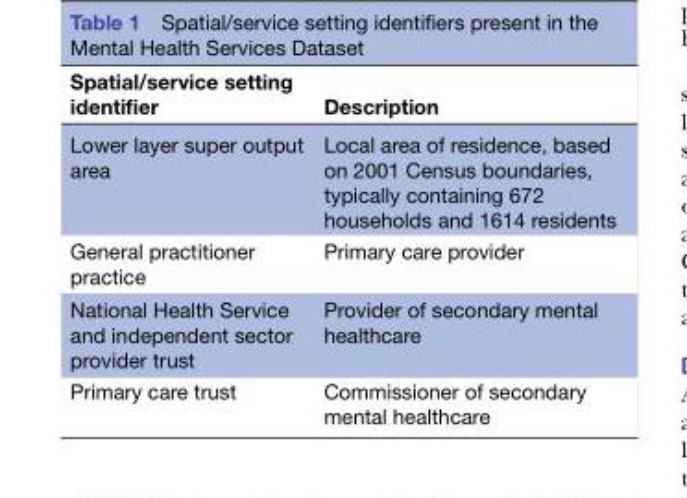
<table><thead><tr><td>Spatial/service setting identifier</td><td>Description</td></tr></thead><tbody><tr><td>Lower layer super output area</td><td>Local area of residence, based on 2001 Census boundaries, typically containing 672 households and 1614 residents</td></tr><tr><td>General practitioner practice</td><td>Primary care provider</td></tr><tr><td>National Health Service and independent sector provider trust</td><td>Provider of secondary mental healthcare</td></tr><tr><td>Primary care trust</td><td>Commissioner of secondary mental healthcare</td></tr></tbody></table>